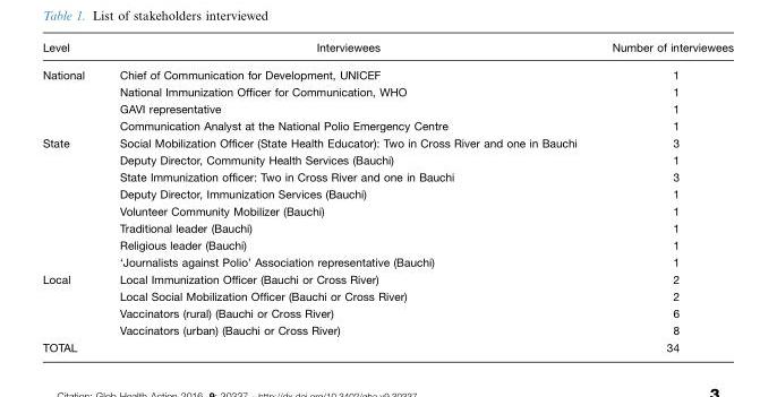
<table><thead><tr><td>Level</td><td>Interviewees</td><td>Number of interviewees</td></tr></thead><tbody><tr><td rowspan="4">National</td><td>Chief of Communication for Development, UNICEF</td><td>1</td></tr><tr><td>National Immunization Officer for Communication, WHO</td><td>1</td></tr><tr><td>GAVI representative</td><td>1</td></tr><tr><td>Communication Analyst at the National Polio Emergency Centre</td><td>1</td></tr><tr><td rowspan="8">State</td><td>Social Mobilization Officer (State Health Educator): Two in Cross River and one in Bauchi</td><td>3</td></tr><tr><td>Deputy Director, Community Health Services (Bauchi)</td><td>1</td></tr><tr><td>State Immunization officer: Two in Cross River and one in Bauchi</td><td>3</td></tr><tr><td>Deputy Director, Immunization Services (Bauchi)</td><td>1</td></tr><tr><td>Volunteer Community Mobilizer (Bauchi)</td><td>1</td></tr><tr><td>Traditional leader (Bauchi)</td><td>1</td></tr><tr><td>Religious leader (Bauchi)</td><td>1</td></tr><tr><td>‘Journalists against Polio’ Association representative (Bauchi)</td><td>1</td></tr><tr><td rowspan="4">Local</td><td>Local Immunization Officer (Bauchi or Cross River)</td><td>2</td></tr><tr><td>Local Social Mobilization Officer (Bauchi or Cross River)</td><td>2</td></tr><tr><td>Vaccinators (rural) (Bauchi or Cross River)</td><td>6</td></tr><tr><td>Vaccinators (urban) (Bauchi or Cross River)</td><td>8</td></tr><tr><td>TOTAL</td><td></td><td>34</td></tr></tbody></table>